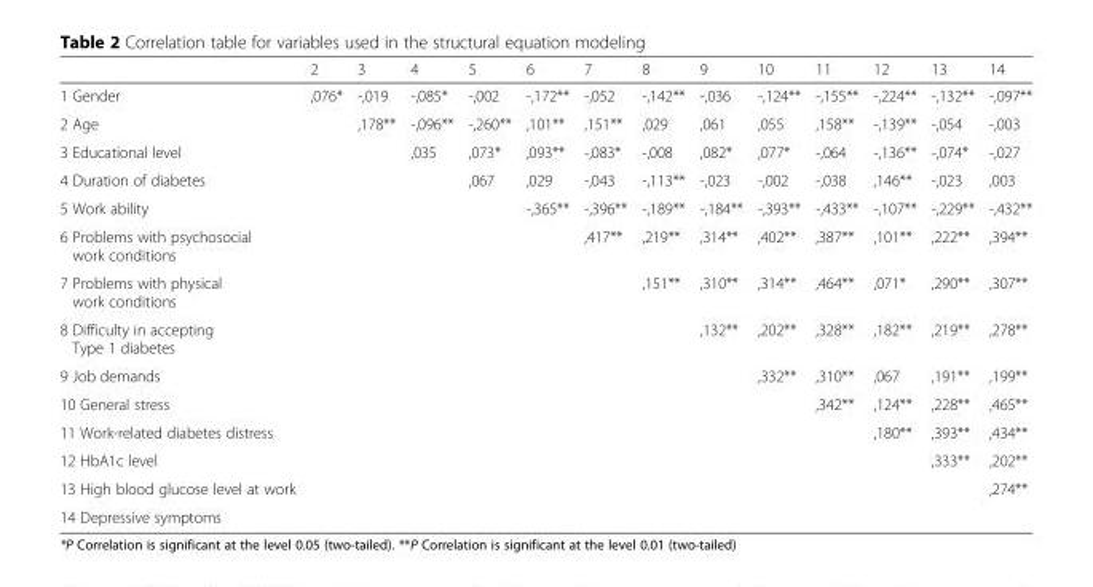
<table><thead><tr><td></td><td>2</td><td>3</td><td>4</td><td>5</td><td>6</td><td>7</td><td>8</td><td>9</td><td>10</td><td>11</td><td>12</td><td>13</td><td>14</td></tr></thead><tbody><tr><td>1 Gender</td><td>,076*</td><td>-,019</td><td>-,085*</td><td>-,002</td><td>-,172**</td><td>-,052</td><td>-,142**</td><td>-,036</td><td>-,124**</td><td>-,155**</td><td>-,224**</td><td>-,132**</td><td>-,097**</td></tr><tr><td>2 Age</td><td></td><td>,178**</td><td>-,096**</td><td>-,260**</td><td>,101**</td><td>,151**</td><td>,029</td><td>,061</td><td>,055</td><td>,158**</td><td>-,139**</td><td>-,054</td><td>-,003</td></tr><tr><td>3 Educational level</td><td></td><td></td><td>,035</td><td>,073*</td><td>,093**</td><td>-,083*</td><td>-,008</td><td>,082*</td><td>,077*</td><td>-,064</td><td>-,136**</td><td>-,074*</td><td>-,027</td></tr><tr><td>4 Duration of diabetes</td><td></td><td></td><td></td><td>,067</td><td>,029</td><td>-,043</td><td>-,113**</td><td>-,023</td><td>-,002</td><td>-,038</td><td>,146**</td><td>-,023</td><td>,003</td></tr><tr><td>5 Work ability</td><td></td><td></td><td></td><td></td><td>-,365**</td><td>-,396**</td><td>-,189**</td><td>-,184**</td><td>-,393**</td><td>-,433**</td><td>-,107**</td><td>-,229**</td><td>-,432**</td></tr><tr><td>6 Problems with psychosocial work conditions</td><td></td><td></td><td></td><td></td><td></td><td>,417**</td><td>,219**</td><td>,314**</td><td>,402**</td><td>,387**</td><td>,101**</td><td>,222**</td><td>,394**</td></tr><tr><td>7 Problems with physical work conditions</td><td></td><td></td><td></td><td></td><td></td><td></td><td>,151**</td><td>,310**</td><td>,314**</td><td>,464**</td><td>,071*</td><td>,290**</td><td>,307**</td></tr><tr><td>8 Difficulty in accepting Type 1 diabetes</td><td></td><td></td><td></td><td></td><td></td><td></td><td></td><td>,132**</td><td>,202**</td><td>,328**</td><td>,182**</td><td>,219**</td><td>,278**</td></tr><tr><td>9 Job demands</td><td></td><td></td><td></td><td></td><td></td><td></td><td></td><td></td><td>,332**</td><td>,310**</td><td>,067</td><td>,191**</td><td>,199**</td></tr><tr><td>10 General stress</td><td></td><td></td><td></td><td></td><td></td><td></td><td></td><td></td><td></td><td>,342**</td><td>,124**</td><td>,228**</td><td>,465**</td></tr><tr><td>11 Work-related diabetes distress</td><td></td><td></td><td></td><td></td><td></td><td></td><td></td><td></td><td></td><td></td><td>,180**</td><td>,393**</td><td>,434**</td></tr><tr><td>12 HbA1c level</td><td></td><td></td><td></td><td></td><td></td><td></td><td></td><td></td><td></td><td></td><td></td><td>,333**</td><td>,202**</td></tr><tr><td>13 High blood glucose level at work</td><td></td><td></td><td></td><td></td><td></td><td></td><td></td><td></td><td></td><td></td><td></td><td></td><td>,274**</td></tr><tr><td>14 Depressive symptoms</td><td></td><td></td><td></td><td></td><td></td><td></td><td></td><td></td><td></td><td></td><td></td><td></td><td></td></tr></tbody></table>